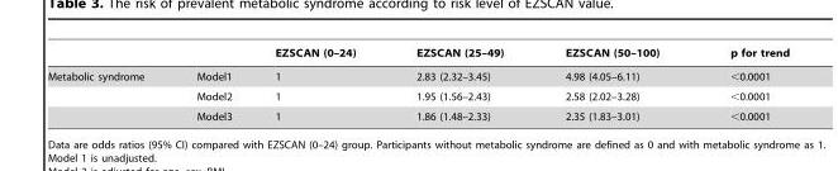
<table><thead><tr><td></td><td></td><td>EZSCAN (0–24)</td><td>EZSCAN (25–49)</td><td>EZSCAN (50–100)</td><td>p for trend</td></tr></thead><tbody><tr><td rowspan="3">Metabolic syndrome</td><td>Model1</td><td>1</td><td>2.83 (2.32–3.45)</td><td>4.98 (4.05–6.11)</td><td>&lt;0.0001</td></tr><tr><td>Model2</td><td>1</td><td>1.95 (1.56–2.43)</td><td>2.58 (2.02–3.28)</td><td>&lt;0.0001</td></tr><tr><td>Model3</td><td>1</td><td>1.86 (1.48–2.33)</td><td>2.35 (1.83–3.01)</td><td>&lt;0.0001</td></tr></tbody></table>